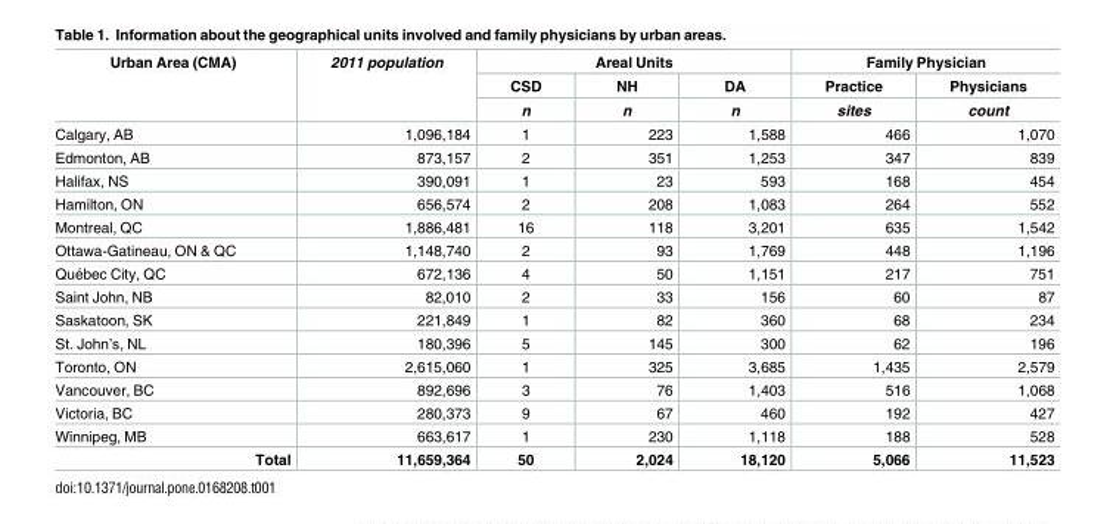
<table><thead><tr><td rowspan="3">Urban Area (CMA)</td><td rowspan="3">2011 population</td><td colspan="3">Areal Units</td><td colspan="2">Family Physician</td></tr><tr><td rowspan="2">CSD n</td><td rowspan="2">NH n</td><td rowspan="2">DA n</td><td rowspan="2">Practice sites</td><td rowspan="2">Physicians count</td></tr><tr></tr></thead><tbody><tr><td>Calgary, AB</td><td>1,096,184</td><td>1</td><td>223</td><td>1,588</td><td>466</td><td>1,070</td></tr><tr><td>Edmonton, AB</td><td>873,157</td><td>2</td><td>351</td><td>1,253</td><td>347</td><td>839</td></tr><tr><td>Halifax, NS</td><td>390,091</td><td>1</td><td>23</td><td>593</td><td>168</td><td>454</td></tr><tr><td>Hamilton, ON</td><td>656,574</td><td>2</td><td>208</td><td>1,083</td><td>264</td><td>552</td></tr><tr><td>Montreal, QC</td><td>1,886,481</td><td>16</td><td>118</td><td>3,201</td><td>635</td><td>1,542</td></tr><tr><td>Ottawa-Gatineau, ON &amp; QC</td><td>1,148,740</td><td>2</td><td>93</td><td>1,769</td><td>448</td><td>1,196</td></tr><tr><td>Que´bec City, QC</td><td>672,136</td><td>4</td><td>50</td><td>1,151</td><td>217</td><td>751</td></tr><tr><td>Saint John, NB</td><td>82,010</td><td>2</td><td>33</td><td>156</td><td>60</td><td>87</td></tr><tr><td>Saskatoon, SK</td><td>221,849</td><td>1</td><td>82</td><td>360</td><td>68</td><td>234</td></tr><tr><td>St. John’s, NL</td><td>180,396</td><td>5</td><td>145</td><td>300</td><td>62</td><td>196</td></tr><tr><td>Toronto, ON</td><td>2,615,060</td><td>1</td><td>325</td><td>3,685</td><td>1,435</td><td>2,579</td></tr><tr><td>Vancouver, BC</td><td>892,696</td><td>3</td><td>76</td><td>1,403</td><td>516</td><td>1,068</td></tr><tr><td>Victoria, BC</td><td>280,373</td><td>9</td><td>67</td><td>460</td><td>192</td><td>427</td></tr><tr><td>Winnipeg, MB</td><td>663,617</td><td>1</td><td>230</td><td>1,118</td><td>188</td><td>528</td></tr><tr><td>Total</td><td>11,659,364</td><td>50</td><td>2,024</td><td>18,120</td><td>5,066</td><td>11,523</td></tr></tbody></table>